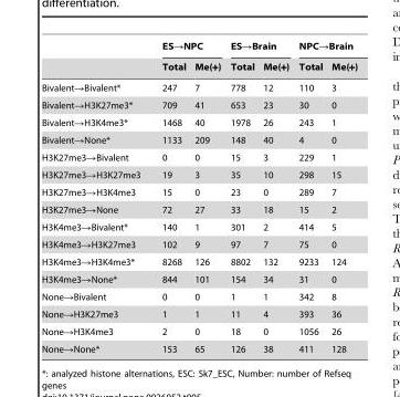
<table><thead><tr><td rowspan="2"></td><td colspan="2">ES→NPC</td><td colspan="2">ES→Brain</td><td colspan="2">NPC→Brain</td></tr><tr><td>Total</td><td>Me(+)</td><td>Total</td><td>Me(+)</td><td>Total</td><td>Me(+)</td></tr></thead><tbody><tr><td>Bivalent→Bivalent*</td><td>247</td><td>7</td><td>778</td><td>12</td><td>110</td><td>3</td></tr><tr><td>Bivalent→H3K27me3*</td><td>709</td><td>41</td><td>653</td><td>23</td><td>30</td><td>0</td></tr><tr><td>Bivalent→H3K4me3*</td><td>1468</td><td>40</td><td>1978</td><td>26</td><td>243</td><td>1</td></tr><tr><td>Bivalent→None*</td><td>1133</td><td>209</td><td>148</td><td>40</td><td>4</td><td>0</td></tr><tr><td>H3K27me3→Bivalent</td><td>0</td><td>0</td><td>15</td><td>3</td><td>229</td><td>1</td></tr><tr><td>H3K27me3→H3K27me3</td><td>19</td><td>3</td><td>35</td><td>10</td><td>298</td><td>15</td></tr><tr><td>H3K27me3→H3K4me3</td><td>15</td><td>0</td><td>23</td><td>0</td><td>289</td><td>7</td></tr><tr><td>H3K27me3→None</td><td>72</td><td>27</td><td>33</td><td>18</td><td>15</td><td>2</td></tr><tr><td>H3K4me3→Bivalent*</td><td>140</td><td>1</td><td>301</td><td>2</td><td>414</td><td>5</td></tr><tr><td>H3K4me3→H3K27me3</td><td>102</td><td>9</td><td>97</td><td>7</td><td>75</td><td>0</td></tr><tr><td>H3K4me3→H3K4me3*</td><td>8268</td><td>126</td><td>8802</td><td>132</td><td>9233</td><td>124</td></tr><tr><td>H3K4me3→None*</td><td>844</td><td>101</td><td>154</td><td>34</td><td>31</td><td>0</td></tr><tr><td>None→Bivalent</td><td>0</td><td>0</td><td>1</td><td>1</td><td>342</td><td>8</td></tr><tr><td>None→H3K27me3</td><td>1</td><td>1</td><td>11</td><td>4</td><td>393</td><td>36</td></tr><tr><td>None→H3K4me3</td><td>2</td><td>0</td><td>18</td><td>0</td><td>1056</td><td>26</td></tr><tr><td>None→None*</td><td>153</td><td>65</td><td>126</td><td>38</td><td>411</td><td>128</td></tr></tbody></table>